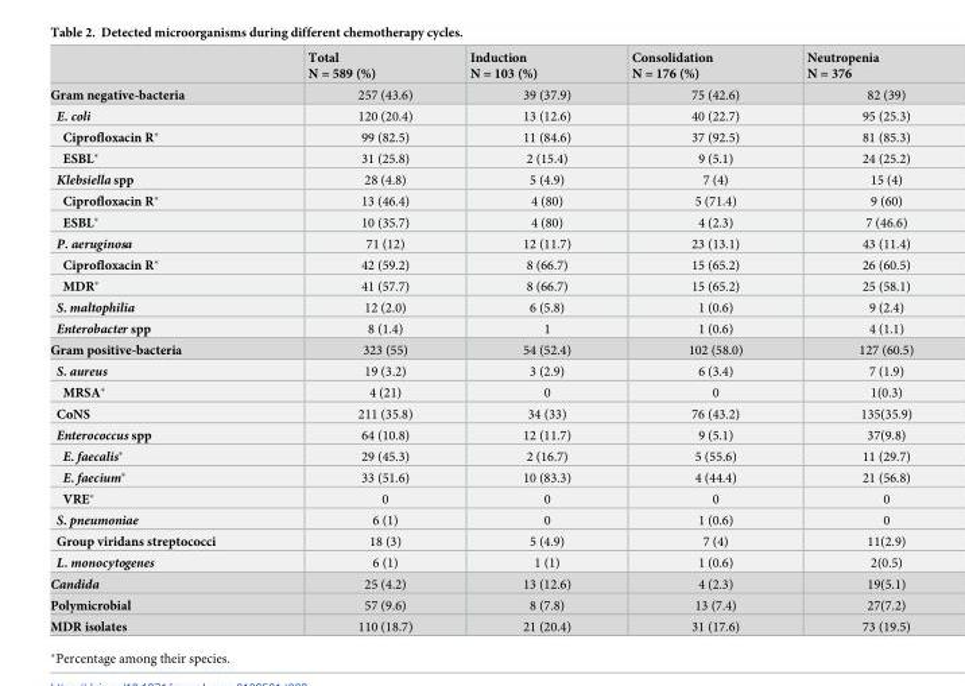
<table><thead><tr><td></td><td>Total N = 589 (%)</td><td>Induction N = 103 (%)</td><td>Consolidation N = 176 (%)</td><td>Neutropenia N = 376</td></tr></thead><tbody><tr><td>Gram negative-bacteria</td><td>257 (43.6)</td><td>39 (37.9)</td><td>75 (42.6)</td><td>82 (39)</td></tr><tr><td>E. coli</td><td>120 (20.4)</td><td>13 (12.6)</td><td>40 (22.7)</td><td>95 (25.3)</td></tr><tr><td>Ciprofloxacin R*</td><td>99 (82.5)</td><td>11 (84.6)</td><td>37 (92.5)</td><td>81 (85.3)</td></tr><tr><td>ESBL*</td><td>31 (25.8)</td><td>2 (15.4)</td><td>9 (5.1)</td><td>24 (25.2)</td></tr><tr><td>Klebsiella spp</td><td>28 (4.8)</td><td>5 (4.9)</td><td>7 (4)</td><td>15 (4)</td></tr><tr><td>Ciprofloxacin R*</td><td>13 (46.4)</td><td>4 (80)</td><td>5 (71.4)</td><td>9 (60)</td></tr><tr><td>ESBL*</td><td>10 (35.7)</td><td>4 (80)</td><td>4 (2.3)</td><td>7 (46.6)</td></tr><tr><td>P. aeruginosa</td><td>71 (12)</td><td>12 (11.7)</td><td>23 (13.1)</td><td>43 (11.4)</td></tr><tr><td>Ciprofloxacin R*</td><td>42 (59.2)</td><td>8 (66.7)</td><td>15 (65.2)</td><td>26 (60.5)</td></tr><tr><td>MDR*</td><td>41 (57.7)</td><td>8 (66.7)</td><td>15 (65.2)</td><td>25 (58.1)</td></tr><tr><td>S. maltophilia</td><td>12 (2.0)</td><td>6 (5.8)</td><td>1 (0.6)</td><td>9 (2.4)</td></tr><tr><td>Enterobacter spp</td><td>8 (1.4)</td><td>1</td><td>1 (0.6)</td><td>4 (1.1)</td></tr><tr><td>Gram positive-bacteria</td><td>323 (55)</td><td>54 (52.4)</td><td>102 (58.0)</td><td>127 (60.5)</td></tr><tr><td>S. aureus</td><td>19 (3.2)</td><td>3 (2.9)</td><td>6 (3.4)</td><td>7 (1.9)</td></tr><tr><td>MRSA*</td><td>4 (21)</td><td>0</td><td>0</td><td>1(0.3)</td></tr><tr><td>CoNS</td><td>211 (35.8)</td><td>34 (33)</td><td>76 (43.2)</td><td>135(35.9)</td></tr><tr><td>Enterococcus spp</td><td>64 (10.8)</td><td>12 (11.7)</td><td>9 (5.1)</td><td>37(9.8)</td></tr><tr><td>E. faecalis*</td><td>29 (45.3)</td><td>2 (16.7)</td><td>5 (55.6)</td><td>11 (29.7)</td></tr><tr><td>E. faecium*</td><td>33 (51.6)</td><td>10 (83.3)</td><td>4 (44.4)</td><td>21 (56.8)</td></tr><tr><td>VRE*</td><td>0</td><td>0</td><td>0</td><td>0</td></tr><tr><td>S. pneumoniae</td><td>6 (1)</td><td>0</td><td>1 (0.6)</td><td>0</td></tr><tr><td>Group viridans streptococci</td><td>18 (3)</td><td>5 (4.9)</td><td>7 (4)</td><td>11(2.9)</td></tr><tr><td>L. monocytogenes</td><td>6 (1)</td><td>1 (1)</td><td>1 (0.6)</td><td>2(0.5)</td></tr><tr><td>Candida</td><td>25 (4.2)</td><td>13 (12.6)</td><td>4 (2.3)</td><td>19(5.1)</td></tr><tr><td>Polymicrobial</td><td>57 (9.6)</td><td>8 (7.8)</td><td>13 (7.4)</td><td>27(7.2)</td></tr><tr><td>MDR isolates</td><td>110 (18.7)</td><td>21 (20.4)</td><td>31 (17.6)</td><td>73 (19.5)</td></tr></tbody></table>